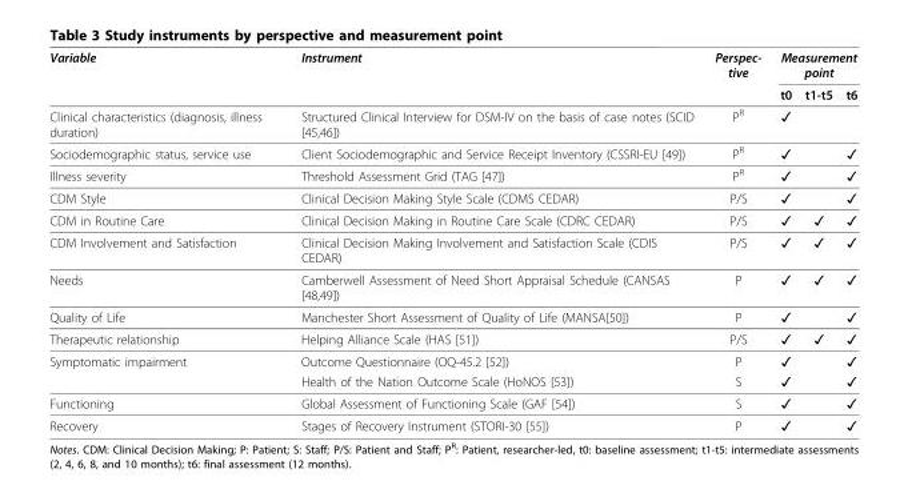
<table><thead><tr><td rowspan="2">Variable</td><td rowspan="2">Instrument</td><td rowspan="2">Perspec- tive</td><td colspan="3">Measurement point</td></tr><tr><td>t0</td><td>t1-t5</td><td>t6</td></tr></thead><tbody><tr><td>Clinical characteristics (diagnosis, illness duration)</td><td>Structured Clinical Interview for DSM-IV on the basis of case notes (SCID [45,46])</td><td>P<sup>R</sup></td><td>✓</td><td></td><td></td></tr><tr><td>Sociodemographic status, service use</td><td>Client Sociodemographic and Service Receipt Inventory (CSSRI-EU [49])</td><td>P<sup>R</sup></td><td>✓</td><td></td><td>✓</td></tr><tr><td>Illness severity</td><td>Threshold Assessment Grid (TAG [47])</td><td>P<sup>R</sup></td><td>✓</td><td></td><td>✓</td></tr><tr><td>CDM Style</td><td>Clinical Decision Making Style Scale (CDMS CEDAR)</td><td>P/S</td><td>✓</td><td></td><td>✓</td></tr><tr><td>CDM in Routine Care</td><td>Clinical Decision Making in Routine Care Scale (CDRC CEDAR)</td><td>P/S</td><td>✓</td><td>✓</td><td>✓</td></tr><tr><td>CDM Involvement and Satisfaction</td><td>Clinical Decision Making Involvement and Satisfaction Scale (CDIS CEDAR)</td><td>P/S</td><td>✓</td><td>✓</td><td>✓</td></tr><tr><td>Needs</td><td>Camberwell Assessment of Need Short Appraisal Schedule (CANSAS [48,49])</td><td>P</td><td>✓</td><td>✓</td><td>✓</td></tr><tr><td>Quality of Life</td><td>Manchester Short Assessment of Quality of Life (MANSA[50])</td><td>P</td><td>✓</td><td></td><td>✓</td></tr><tr><td>Therapeutic relationship</td><td>Helping Alliance Scale (HAS [51])</td><td>P/S</td><td>✓</td><td>✓</td><td>✓</td></tr><tr><td rowspan="2">Symptomatic impairment</td><td>Outcome Questionnaire (OQ-45.2 [52])</td><td>P</td><td>✓</td><td></td><td>✓</td></tr><tr><td>Health of the Nation Outcome Scale (HoNOS [53])</td><td>S</td><td>✓</td><td></td><td>✓</td></tr><tr><td>Functioning</td><td>Global Assessment of Functioning Scale (GAF [54])</td><td>S</td><td>✓</td><td></td><td>✓</td></tr><tr><td>Recovery</td><td>Stages of Recovery Instrument (STORI-30 [55])</td><td>P</td><td>✓</td><td></td><td>✓</td></tr></tbody></table>